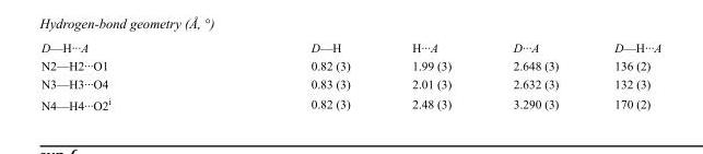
<table><tbody><tr><td>D—H···A</td><td>D—H</td><td>H···A</td><td>D···A</td><td>D—H···A</td></tr><tr><td>N2—H2···O1</td><td>0.82 (3)</td><td>1.99 (3)</td><td>2.648 (3)</td><td>136 (2)</td></tr><tr><td>N3—H3···O4</td><td>0.83 (3)</td><td>2.01 (3)</td><td>2.632 (3)</td><td>132 (3)</td></tr><tr><td>N4—H4···O2<sup>i</sup></td><td>0.82 (3)</td><td>2.48 (3)</td><td>3.290 (3)</td><td>170 (2)</td></tr></tbody></table>